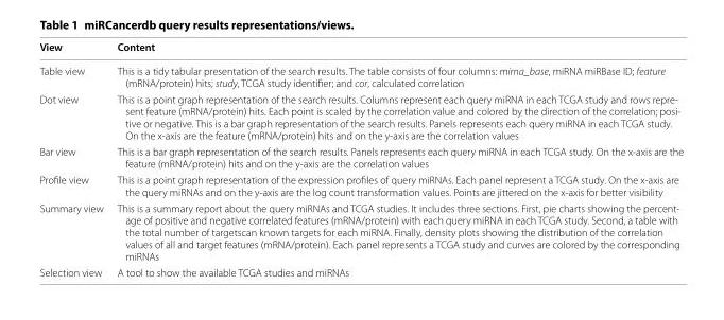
<table><thead><tr><td>View</td><td>Content</td></tr></thead><tbody><tr><td>Table view</td><td>This is a tidy tabular presentation of the search results. The table consists of four columns: mirna_base, miRNA miRBase ID; feature (mRNA/protein) hits; study, TCGA study identifier; and cor, calculated correlation</td></tr><tr><td>Dot view</td><td>This is a point graph representation of the search results. Columns represent each query miRNA in each TCGA study and rows repre- sent feature (mRNA/protein) hits. Each point is scaled by the correlation value and colored by the direction of the correlation; posi- tive or negative. This is a bar graph representation of the search results. Panels represents each query miRNA in each TCGA study. On the x-axis are the feature (mRNA/protein) hits and on the y-axis are the correlation values</td></tr><tr><td>Bar view</td><td>This is a bar graph representation of the search results. Panels represents each query miRNA in each TCGA study. On the x-axis are the feature (mRNA/protein) hits and on the y-axis are the correlation values</td></tr><tr><td>Profile view</td><td>This is a point graph representation of the expression profiles of query miRNAs. Each panel represent a TCGA study. On the x-axis are the query miRNAs and on the y-axis are the log count transformation values. Points are jittered on the x-axis for better visibility</td></tr><tr><td>Summary view</td><td>This is a summary report about the query miRNAs and TCGA studies. It includes three sections. First, pie charts showing the percent- age of positive and negative correlated features (mRNA/protein) with each query miRNA in each TCGA study. Second, a table with the total number of targetscan known targets for each miRNA. Finally, density plots showing the distribution of the correlation values of all and target features (mRNA/protein). Each panel represents a TCGA study and curves are colored by the corresponding miRNAs</td></tr><tr><td>Selection view</td><td>A tool to show the available TCGA studies and miRNAs</td></tr></tbody></table>